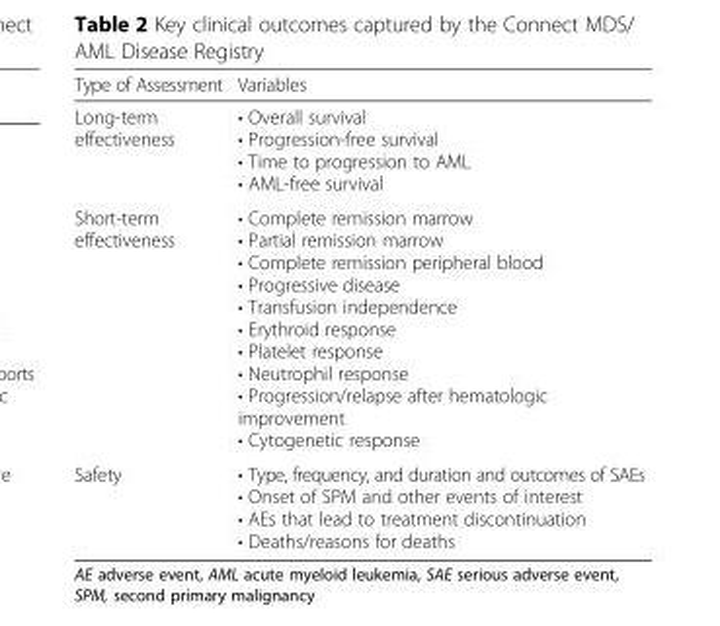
<table><thead><tr><td>Type of Assessment</td><td>Variables</td></tr></thead><tbody><tr><td>Long-term effectiveness</td><td>• Overall survival • Progression-free survival • Time to progression to AML • AML-free survival</td></tr><tr><td>Short-term effectiveness</td><td>• Complete remission marrow • Partial remission marrow • Complete remission peripheral blood • Progressive disease • Transfusion independence • Erythroid response • Platelet response • Neutrophil response • Progression/relapse after hematologic improvement • Cytogenetic response</td></tr><tr><td>Safety</td><td>• Type, frequency, and duration and outcomes of SAEs • Onset of SPM and other events of interest • AEs that lead to treatment discontinuation • Deaths/reasons for deaths</td></tr></tbody></table>